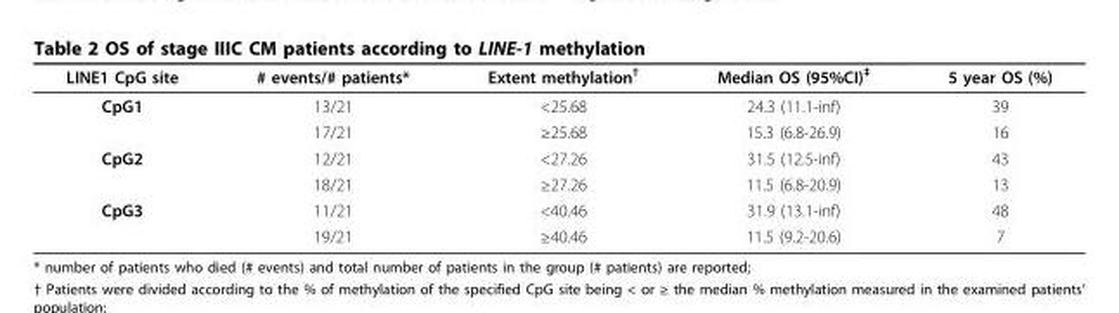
<table><thead><tr><td>LINE1 CpG site</td><td># events/# patients*</td><td>Extent methylation<sup>†</sup></td><td>Median OS (95%CI)<sup>‡</sup></td><td>5 year OS (%)</td></tr></thead><tbody><tr><td rowspan="2">CpG1</td><td>13/21</td><td>&lt;25.68</td><td>24.3 (11.1-inf)</td><td>39</td></tr><tr><td>17/21</td><td>≥25.68</td><td>15.3 (6.8-26.9)</td><td>16</td></tr><tr><td rowspan="2">CpG2</td><td>12/21</td><td>&lt;27.26</td><td>31.5 (12.5-inf)</td><td>43</td></tr><tr><td>18/21</td><td>≥27.26</td><td>11.5 (6.8-20.9)</td><td>13</td></tr><tr><td rowspan="2">CpG3</td><td>11/21</td><td>&lt;40.46</td><td>31.9 (13.1-inf)</td><td>48</td></tr><tr><td>19/21</td><td>≥40.46</td><td>11.5 (9.2-20.6)</td><td>7</td></tr></tbody></table>